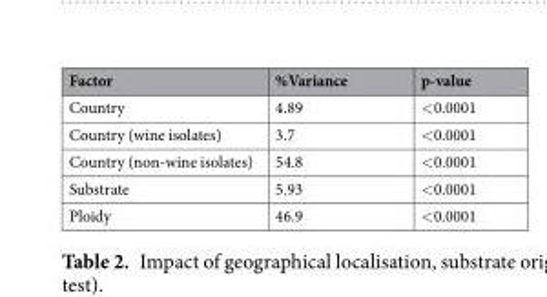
<table><thead><tr><td>Factor</td><td>%Variance</td><td>p-value</td></tr></thead><tbody><tr><td>Country</td><td>4.89</td><td>&lt;0.0001</td></tr><tr><td>Country (wine isolates)</td><td>3.7</td><td>&lt;0.0001</td></tr><tr><td>Country (non-wine isolates)</td><td>54.8</td><td>&lt;0.0001</td></tr><tr><td>Substrate</td><td>5.93</td><td>&lt;0.0001</td></tr><tr><td>Ploidy</td><td>46.9</td><td>&lt;0.0001</td></tr></tbody></table>